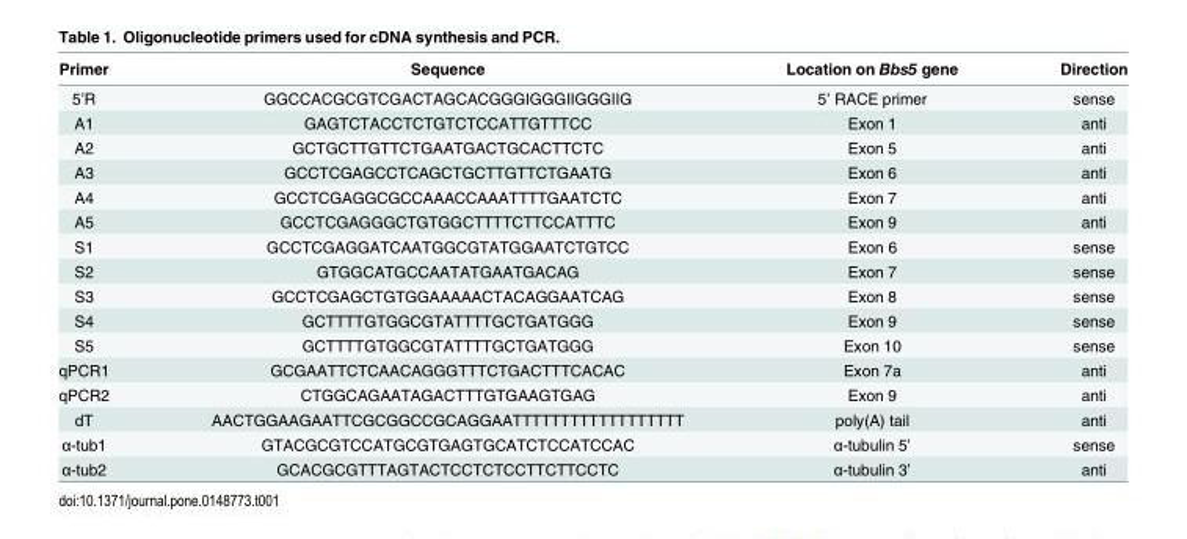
<table><thead><tr><td>Primer</td><td>Sequence</td><td>Location on Bbs5 gene</td><td>Direction</td></tr></thead><tbody><tr><td>5’R</td><td>GGCCACGCGTCGACTAGCACGGGIGGGIIGGGIIG</td><td>5’ RACE primer</td><td>sense</td></tr><tr><td>A1</td><td>GAGTCTACCTCTGTCTCCATTGTTTCC</td><td>Exon 1</td><td>anti</td></tr><tr><td>A2</td><td>GCTGCTTGTTCTGAATGACTGCACTTCTC</td><td>Exon 5</td><td>anti</td></tr><tr><td>A3</td><td>GCCTCGAGCCTCAGCTGCTTGTTCTGAATG</td><td>Exon 6</td><td>anti</td></tr><tr><td>A4</td><td>GCCTCGAGGCGCCAAACCAAATTTTGAATCTC</td><td>Exon 7</td><td>anti</td></tr><tr><td>A5</td><td>GCCTCGAGGGCTGTGGCTTTTCTTCCATTTC</td><td>Exon 9</td><td>anti</td></tr><tr><td>S1</td><td>GCCTCGAGGATCAATGGCGTATGGAATCTGTCC</td><td>Exon 6</td><td>sense</td></tr><tr><td>S2</td><td>GTGGCATGCCAATATGAATGACAG</td><td>Exon 7</td><td>sense</td></tr><tr><td>S3</td><td>GCCTCGAGCTGTGGAAAAACTACAGGAATCAG</td><td>Exon 8</td><td>sense</td></tr><tr><td>S4</td><td>GCTTTTGTGGCGTATTTTGCTGATGGG</td><td>Exon 9</td><td>sense</td></tr><tr><td>S5</td><td>GCTTTTGTGGCGTATTTTGCTGATGGG</td><td>Exon 10</td><td>sense</td></tr><tr><td>qPCR1</td><td>GCGAATTCTCAACAGGGTTTCTGACTTTCACAC</td><td>Exon 7a</td><td>anti</td></tr><tr><td>qPCR2</td><td>CTGGCAGAATAGACTTTGTGAAGTGAG</td><td>Exon 9</td><td>anti</td></tr><tr><td>dT</td><td>AACTGGAAGAATTCGCGGCCGCAGGAATTTTTTTTTTTTTTTTTT</td><td>poly(A) tail</td><td>anti</td></tr><tr><td>α-tub1</td><td>GTACGCGTCCATGCGTGAGTGCATCTCCATCCAC</td><td>α-tubulin 5’</td><td>sense</td></tr><tr><td>α-tub2</td><td>GCACGCGTTTAGTACTCCTCTCCTTCTTCCTC</td><td>α-tubulin 3’</td><td>anti</td></tr></tbody></table>